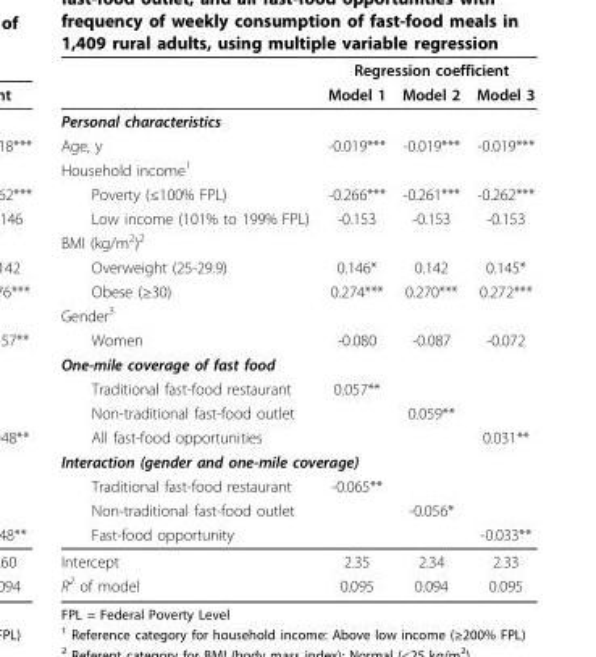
<table><thead><tr><td rowspan="2"></td><td colspan="3">Regression coefficient</td></tr><tr><td>Model 1</td><td>Model 2</td><td>Model 3</td></tr></thead><tbody><tr><td colspan="4">Personal characteristics</td></tr><tr><td>Age, y</td><td>-0.019***</td><td>-0.019***</td><td>-0.019***</td></tr><tr><td colspan="4">Household income<sup>1</sup></td></tr><tr><td>Poverty (≤100% FPL)</td><td>-0.266***</td><td>-0.261***</td><td>-0.262***</td></tr><tr><td>Low income (101% to 199% FPL)</td><td>-0.153</td><td>-0.153</td><td>-0.153</td></tr><tr><td colspan="4">BMI (kg/m<sup>2</sup>)<sup>2</sup></td></tr><tr><td>Overweight (25-29.9)</td><td>0.146*</td><td>0.142</td><td>0.145*</td></tr><tr><td>Obese (≥30)</td><td>0.274***</td><td>0.270***</td><td>0.272***</td></tr><tr><td colspan="4">Gender<sup>3</sup></td></tr><tr><td>Women</td><td>-0.080</td><td>-0.087</td><td>-0.072</td></tr><tr><td colspan="4">One-mile coverage of fast food</td></tr><tr><td>Traditional fast-food restaurant</td><td>0.057**</td><td></td><td></td></tr><tr><td>Non-traditional fast-food outlet</td><td></td><td>0.059**</td><td></td></tr><tr><td>All fast-food opportunities</td><td></td><td></td><td>0.031**</td></tr><tr><td colspan="4">Interaction (gender and one-mile coverage)</td></tr><tr><td>Traditional fast-food restaurant</td><td>-0.065**</td><td></td><td></td></tr><tr><td>Non-traditional fast-food outlet</td><td></td><td>-0.056*</td><td></td></tr><tr><td>Fast-food opportunity</td><td></td><td></td><td>-0.033**</td></tr><tr><td>Intercept</td><td>2.35</td><td>2.34</td><td>2.33</td></tr><tr><td>R<sup>2</sup> of model</td><td>0.095</td><td>0.094</td><td>0.095</td></tr></tbody></table>